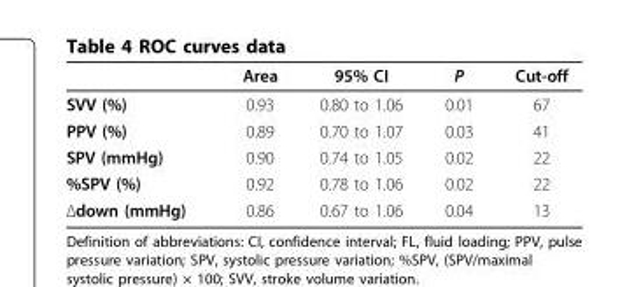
<table><thead><tr><td></td><td>Area</td><td>95% CI</td><td>P</td><td>Cut-off</td></tr></thead><tbody><tr><td>SVV (%)</td><td>0.93</td><td>0.80 to 1.06</td><td>0.01</td><td>67</td></tr><tr><td>PPV (%)</td><td>0.89</td><td>0.70 to 1.07</td><td>0.03</td><td>41</td></tr><tr><td>SPV (mmHg)</td><td>0.90</td><td>0.74 to 1.05</td><td>0.02</td><td>22</td></tr><tr><td>%SPV (%)</td><td>0.92</td><td>0.78 to 1.06</td><td>0.02</td><td>22</td></tr><tr><td>Δdown (mmHg)</td><td>0.86</td><td>0.67 to 1.06</td><td>0.04</td><td>13</td></tr></tbody></table>